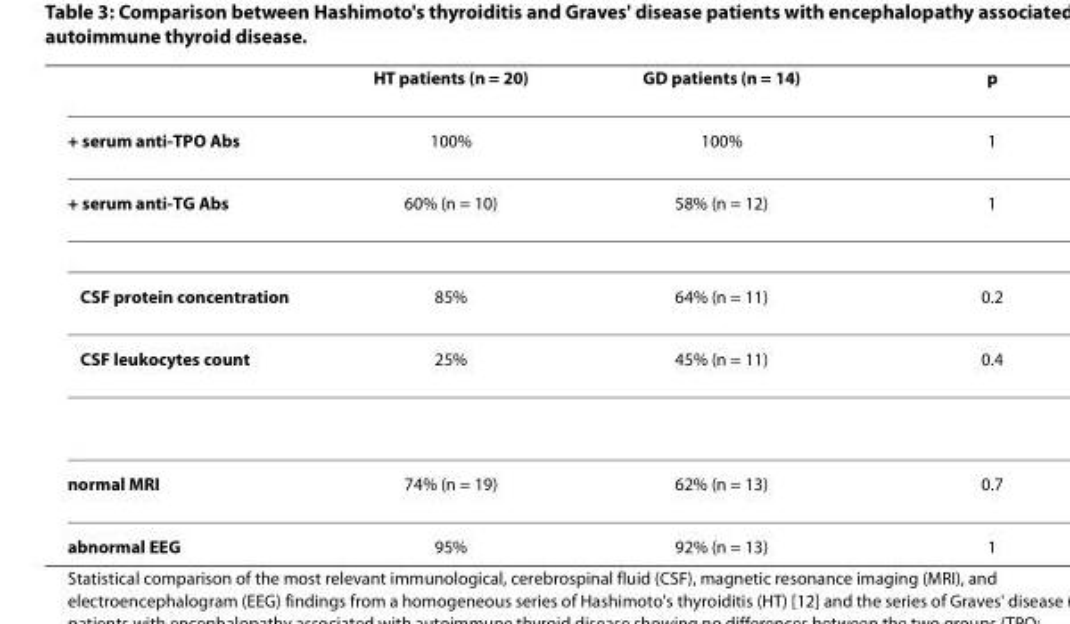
<table><thead><tr><td></td><td>HT patients (n = 20)</td><td>GD patients (n = 14)</td><td>p</td></tr></thead><tbody><tr><td>+ serum anti-TPO Abs</td><td>100%</td><td>100%</td><td>1</td></tr><tr><td>+ serum anti-TG Abs</td><td>60% (n = 10)</td><td>58% (n = 12)</td><td>1</td></tr><tr><td>↑ CSF protein concentration</td><td>85%</td><td>64% (n = 11)</td><td>0.2</td></tr><tr><td>↑ CSF leukocytes count</td><td>25%</td><td>45% (n = 11)</td><td>0.4</td></tr><tr><td>normal MRI</td><td>74% (n = 19)</td><td>62% (n = 13)</td><td>0.7</td></tr><tr><td>abnormal EEG</td><td>95%</td><td>92% (n = 13)</td><td>1</td></tr></tbody></table>